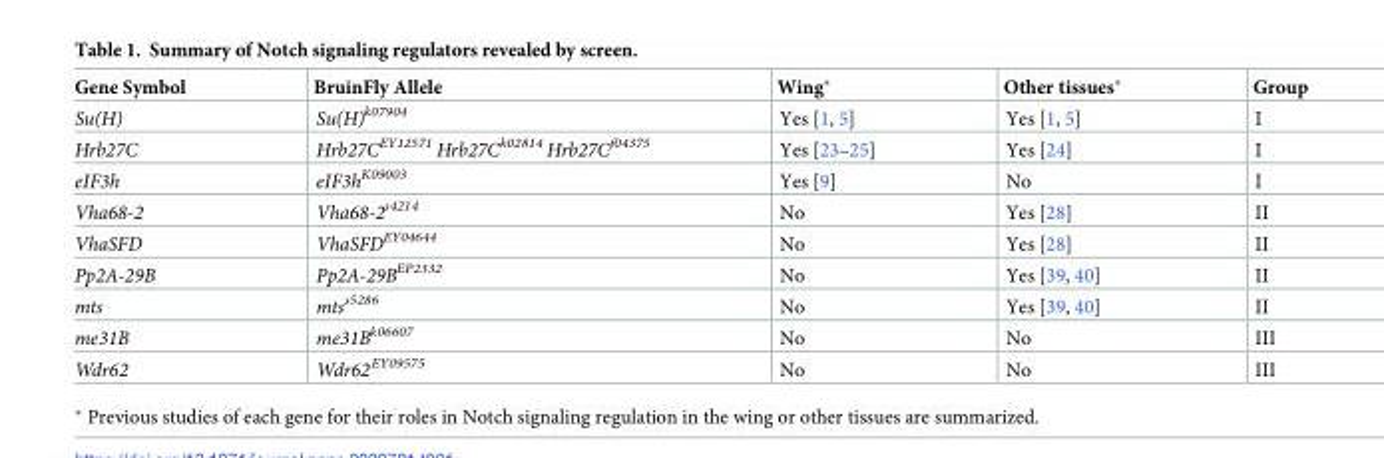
<table><thead><tr><td>Gene Symbol</td><td>BruinFly Allele</td><td>Wing*</td><td>Other tissues*</td><td>Group</td></tr></thead><tbody><tr><td>Su(H)</td><td>Su(H)<sup>k07904</sup></td><td>Yes [1, 5]</td><td>Yes [1, 5]</td><td>I</td></tr><tr><td>Hrb27C</td><td>Hrb27C<sup>EY12571</sup> Hrb27C<sup>k02814</sup> Hrb27C<sup>f04375</sup></td><td>Yes [23–25]</td><td>Yes [24]</td><td>I</td></tr><tr><td>eIF3h</td><td>eIF3h<sup>K09003</sup></td><td>Yes [9]</td><td>No</td><td>I</td></tr><tr><td>Vha68-2</td><td>Vha68-2<sup>s4214</sup></td><td>No</td><td>Yes [28]</td><td>II</td></tr><tr><td>VhaSFD</td><td>VhaSFD<sup>EY04644</sup></td><td>No</td><td>Yes [28]</td><td>II</td></tr><tr><td>Pp2A-29B</td><td>Pp2A-29B<sup>EP2332</sup></td><td>No</td><td>Yes [39, 40]</td><td>II</td></tr><tr><td>mts</td><td>mts<sup>s5286</sup></td><td>No</td><td>Yes [39, 40]</td><td>II</td></tr><tr><td>me31B</td><td>me31B<sup>k06607</sup></td><td>No</td><td>No</td><td>III</td></tr><tr><td>Wdr62</td><td>Wdr62<sup>EY09575</sup></td><td>No</td><td>No</td><td>III</td></tr></tbody></table>